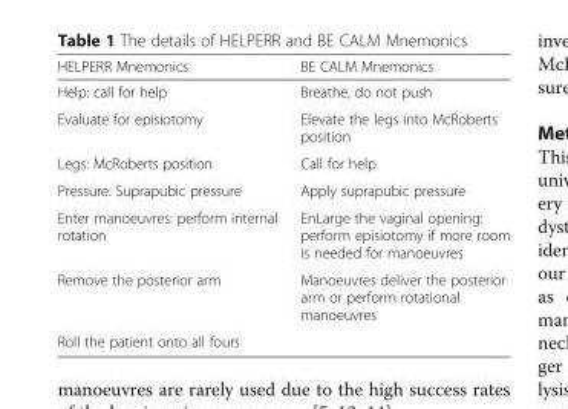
<table><thead><tr><td>HELPERR Mnemonics</td><td>BE CALM Mnemonics</td></tr></thead><tbody><tr><td>Help: call for help</td><td>Breathe, do not push</td></tr><tr><td>Evaluate for episiotomy</td><td>Elevate the legs into McRoberts position</td></tr><tr><td>Legs: McRoberts position</td><td>Call for help</td></tr><tr><td>Pressure: Suprapubic pressure</td><td>Apply suprapubic pressure</td></tr><tr><td>Enter manoeuvres: perform internal rotation</td><td>EnLarge the vaginal opening: perform episiotomy if more room is needed for manoeuvres</td></tr><tr><td>Remove the posterior arm</td><td>Manoeuvres deliver the posterior arm or perform rotational manoeuvres</td></tr><tr><td>Roll the patient onto all fours</td><td></td></tr></tbody></table>